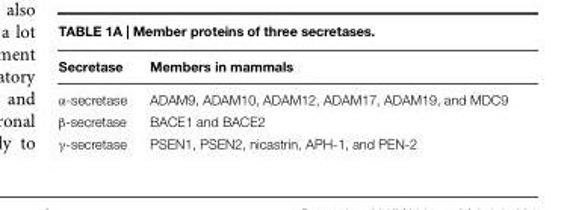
<table><thead><tr><td>Secretase</td><td>Members in mammals</td></tr></thead><tbody><tr><td>α-secretase</td><td>ADAM9, ADAM10, ADAM12, ADAM17, ADAM19, and MDC9</td></tr><tr><td>β-secretase</td><td>BACE1 and BACE2</td></tr><tr><td>γ-secretase</td><td>PSEN1, PSEN2, nicastrin, APH-1, and PEN-2</td></tr></tbody></table>